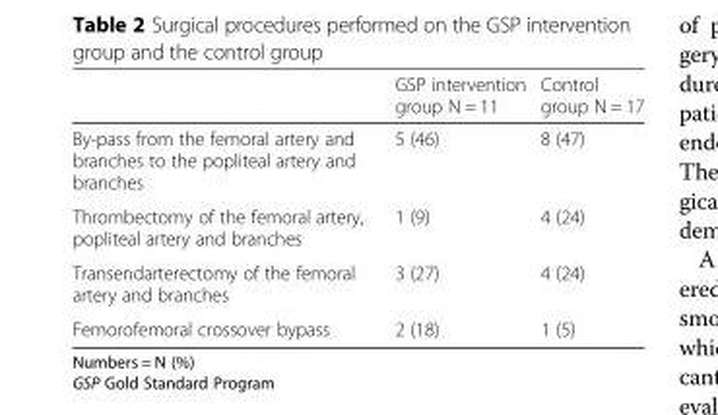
<table><thead><tr><td></td><td>GSP intervention group N = 11</td><td>Control group N = 17</td></tr></thead><tbody><tr><td>By-pass from the femoral artery and branches to the popliteal artery and branches</td><td>5 (46)</td><td>8 (47)</td></tr><tr><td>Thrombectomy of the femoral artery, popliteal artery and branches</td><td>1 (9)</td><td>4 (24)</td></tr><tr><td>Transendarterectomy of the femoral artery and branches</td><td>3 (27)</td><td>4 (24)</td></tr><tr><td>Femorofemoral crossover bypass</td><td>2 (18)</td><td>1 (5)</td></tr></tbody></table>